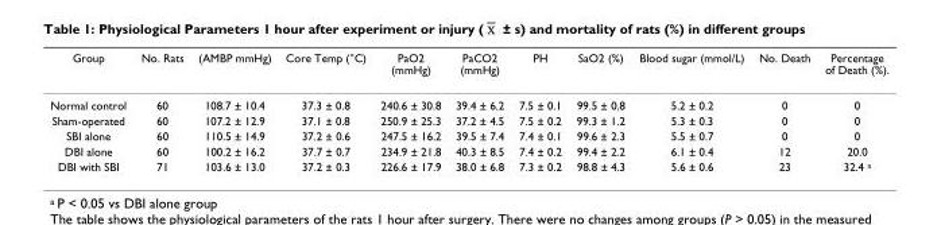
<table><thead><tr><td>Group</td><td>No. Rats</td><td>(AMBP mmHg)</td><td>Core Temp (°C)</td><td>PaO2 (mmHg)</td><td>PaCO2 (mmHg)</td><td>PH</td><td>SaO2 (%)</td><td>Blood sugar (mmol/L)</td><td>No. Death</td><td>Percentage of Death (%).</td></tr></thead><tbody><tr><td>Normal control</td><td>60</td><td>108.7 ± 10.4</td><td>37.3 ± 0.8</td><td>240.6 ± 30.8</td><td>39.4 ± 6.2</td><td>7.5 ± 0.1</td><td>99.5 ± 0.8</td><td>5.2 ± 0.2</td><td>0</td><td>0</td></tr><tr><td>Sham-operated</td><td>60</td><td>107.2 ± 12.9</td><td>37.1 ± 0.8</td><td>250.9 ± 25.3</td><td>37.2 ± 4.5</td><td>7.5 ± 0.2</td><td>99.3 ± 1.2</td><td>5.3 ± 0.3</td><td>0</td><td>0</td></tr><tr><td>SBI alone</td><td>60</td><td>110.5 ± 14.9</td><td>37.2 ± 0.6</td><td>247.5 ± 16.2</td><td>39.5 ± 7.4</td><td>7.4 ± 0.1</td><td>99.6 ± 2.3</td><td>5.5 ± 0.7</td><td>0</td><td>0</td></tr><tr><td>DBI alone</td><td>60</td><td>100.2 ± 16.2</td><td>37.7 ± 0.7</td><td>234.9 ± 21.8</td><td>40.3 ± 8.5</td><td>7.4 ± 0.2</td><td>99.4 ± 2.2</td><td>6.1 ± 0.4</td><td>12</td><td>20.0</td></tr><tr><td>DBI with SBI</td><td>71</td><td>103.6 ± 13.0</td><td>37.2 ± 0.3</td><td>226.6 ± 17.9</td><td>38.0 ± 6.8</td><td>7.3 ± 0.2</td><td>98.8 ± 4.3</td><td>5.6 ± 0.6</td><td>23</td><td>32.4 <sup>a</sup></td></tr></tbody></table>